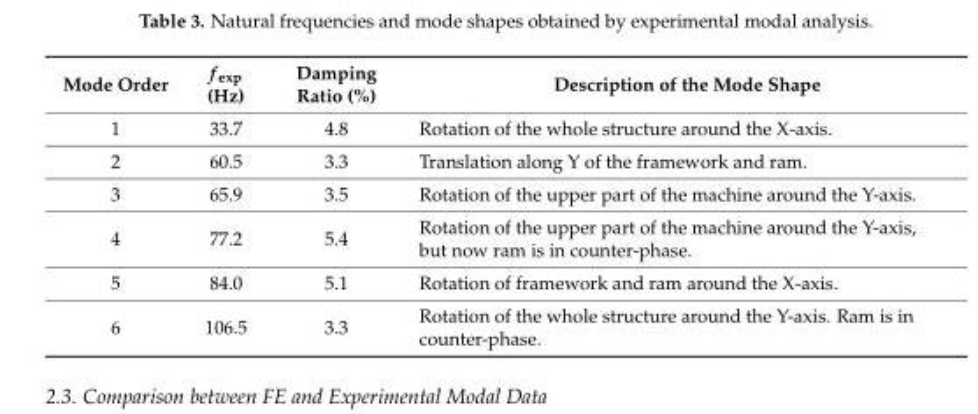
<table><thead><tr><td>Mode Order</td><td>f<sub>exp</sub> (Hz)</td><td>Damping Ratio (%)</td><td>Description of the Mode Shape</td></tr></thead><tbody><tr><td>1</td><td>33.7</td><td>4.8</td><td>Rotation of the whole structure around the X-axis.</td></tr><tr><td>2</td><td>60.5</td><td>3.3</td><td>Translation along Y of the framework and ram.</td></tr><tr><td>3</td><td>65.9</td><td>3.5</td><td>Rotation of the upper part of the machine around the Y-axis.</td></tr><tr><td>4</td><td>77.2</td><td>5.4</td><td>Rotation of the upper part of the machine around the Y-axis, but now ram is in counter-phase.</td></tr><tr><td>5</td><td>84.0</td><td>5.1</td><td>Rotation of framework and ram around the X-axis.</td></tr><tr><td>6</td><td>106.5</td><td>3.3</td><td>Rotation of the whole structure around the Y-axis. Ram is in counter-phase.</td></tr></tbody></table>